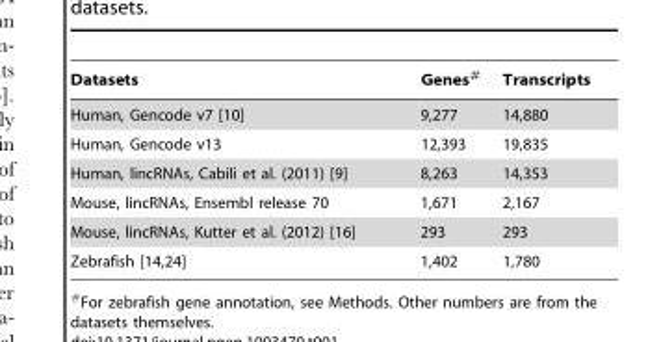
<table><thead><tr><td>Datasets</td><td>Genes#</td><td>Transcripts</td></tr></thead><tbody><tr><td>Human, Gencode v7 [10]</td><td>9,277</td><td>14,880</td></tr><tr><td>Human, Gencode v13</td><td>12,393</td><td>19,835</td></tr><tr><td>Human, lincRNAs, Cabili et al. (2011) [9]</td><td>8,263</td><td>14,353</td></tr><tr><td>Mouse, lincRNAs, Ensembl release 70</td><td>1,671</td><td>2,167</td></tr><tr><td>Mouse, lincRNAs, Kutter et al. (2012) [16]</td><td>293</td><td>293</td></tr><tr><td>Zebrafish [14,24]</td><td>1,402</td><td>1,780</td></tr></tbody></table>